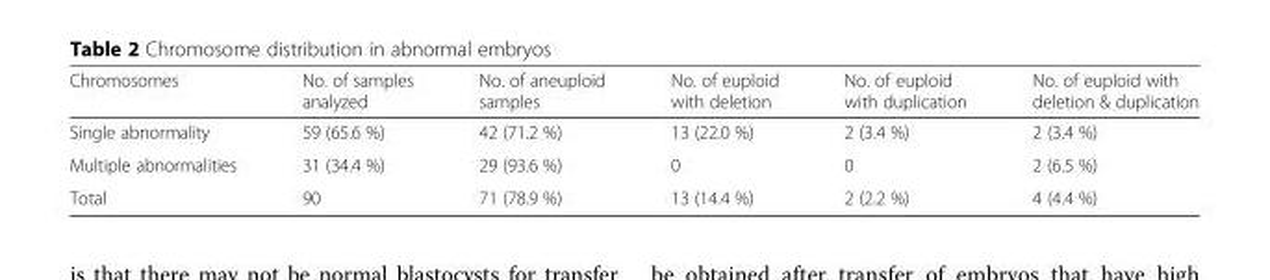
<table><thead><tr><td>Chromosomes</td><td>No. of samples analyzed</td><td>No. of aneuploid samples</td><td>No. of euploid with deletion</td><td>No. of euploid with duplication</td><td>No. of euploid with deletion &amp; duplication</td></tr></thead><tbody><tr><td>Single abnormality</td><td>59 (65.6 %)</td><td>42 (71.2 %)</td><td>13 (22.0 %)</td><td>2 (3.4 %)</td><td>2 (3.4 %)</td></tr><tr><td>Multiple abnormalities</td><td>31 (34.4 %)</td><td>29 (93.6 %)</td><td>0</td><td>0</td><td>2 (6.5 %)</td></tr><tr><td>Total</td><td>90</td><td>71 (78.9 %)</td><td>13 (14.4 %)</td><td>2 (2.2 %)</td><td>4 (4.4 %)</td></tr></tbody></table>